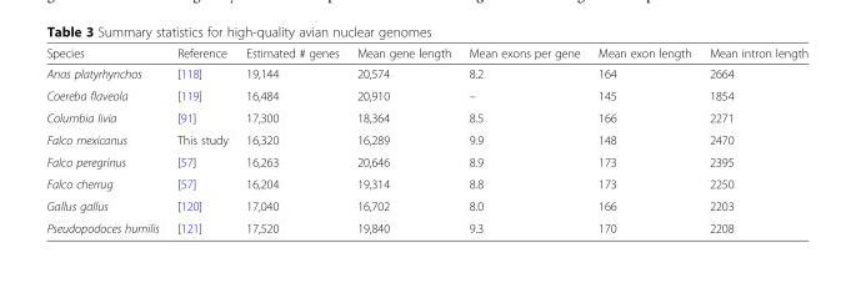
<table><thead><tr><td>Species</td><td>Reference</td><td>Estimated # genes</td><td>Mean gene length</td><td>Mean exons per gene</td><td>Mean exon length</td><td>Mean intron length</td></tr></thead><tbody><tr><td>Anas platyrhynchos</td><td>[118]</td><td>19,144</td><td>20,574</td><td>8.2</td><td>164</td><td>2664</td></tr><tr><td>Coereba flaveola</td><td>[119]</td><td>16,484</td><td>20,910</td><td>–</td><td>145</td><td>1854</td></tr><tr><td>Columbia livia</td><td>[91]</td><td>17,300</td><td>18,364</td><td>8.5</td><td>166</td><td>2271</td></tr><tr><td>Falco mexicanus</td><td>This study</td><td>16,320</td><td>16,289</td><td>9.9</td><td>148</td><td>2470</td></tr><tr><td>Falco peregrinus</td><td>[57]</td><td>16,263</td><td>20,646</td><td>8.9</td><td>173</td><td>2395</td></tr><tr><td>Falco cherrug</td><td>[57]</td><td>16,204</td><td>19,314</td><td>8.8</td><td>173</td><td>2250</td></tr><tr><td>Gallus gallus</td><td>[120]</td><td>17,040</td><td>16,702</td><td>8.0</td><td>166</td><td>2203</td></tr><tr><td>Pseudopodoces humilis</td><td>[121]</td><td>17,520</td><td>19,840</td><td>9.3</td><td>170</td><td>2208</td></tr></tbody></table>